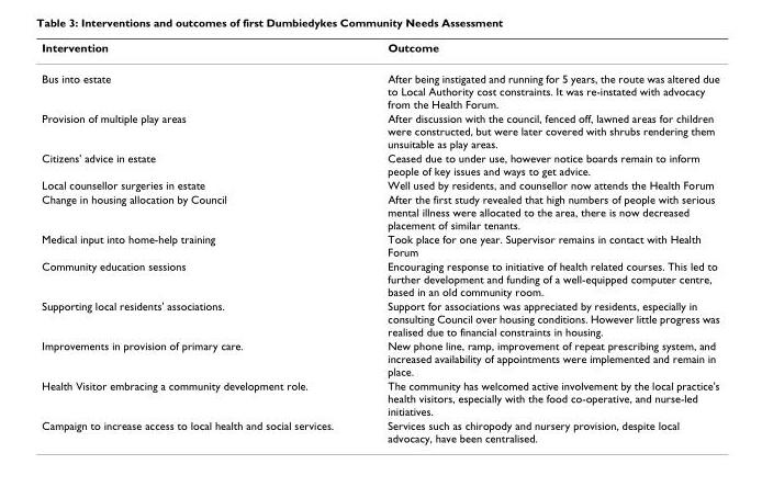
<table><thead><tr><td>Intervention</td><td>Outcome</td></tr></thead><tbody><tr><td>Bus into estate</td><td>After being instigated and running for 5 years, the route was altered due to Local Authority cost constraints. It was re-instated with advocacy from the Health Forum.</td></tr><tr><td>Provision of multiple play areas</td><td>After discussion with the council, fenced off, lawned areas for children were constructed, but were later covered with shrubs rendering them unsuitable as play areas.</td></tr><tr><td>Citizens&#x27; advice in estate</td><td>Ceased due to under use, however notice boards remain to inform people of key issues and ways to get advice.</td></tr><tr><td>Local counsellor surgeries in estate</td><td>Well used by residents, and counsellor now attends the Health Forum</td></tr><tr><td>Change in housing allocation by Council</td><td>After the first study revealed that high numbers of people with serious mental illness were allocated to the area, there is now decreased placement of similar tenants.</td></tr><tr><td>Medical input into home-help training</td><td>Took place for one year. Supervisor remains in contact with Health Forum</td></tr><tr><td>Community education sessions</td><td>Encouraging response to initiative of health related courses. This led to further development and funding of a well-equipped computer centre, based in an old community room.</td></tr><tr><td>Supporting local residents&#x27; associations.</td><td>Support for associations was appreciated by residents, especially in consulting Council over housing conditions. However little progress was realised due to financial constraints in housing.</td></tr><tr><td>Improvements in provision of primary care.</td><td>New phone line, ramp, improvement of repeat prescribing system, and increased availability of appointments were implemented and remain in place.</td></tr><tr><td>Health Visitor embracing a community development role.</td><td>The community has welcomed active involvement by the local practice&#x27;s health visitors, especially with the food co-operative, and nurse-led initiatives.</td></tr><tr><td>Campaign to increase access to local health and social services.</td><td>Services such as chiropody and nursery provision, despite local advocacy, have been centralised.</td></tr></tbody></table>